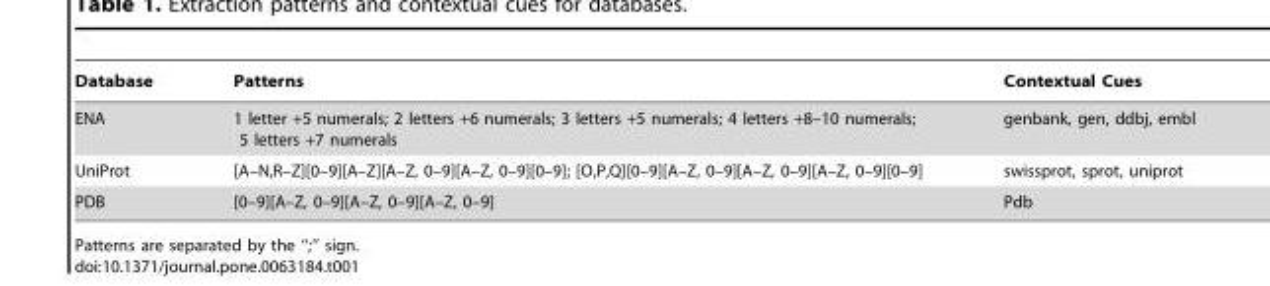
<table><thead><tr><td>Database</td><td>Patterns</td><td>Contextual Cues</td></tr></thead><tbody><tr><td>ENA</td><td>1 letter +5 numerals; 2 letters +6 numerals; 3 letters +5 numerals; 4 letters +8–10 numerals; 5 letters +7 numerals</td><td>genbank, gen, ddbj, embl</td></tr><tr><td>UniProt</td><td>[A–N,R–Z][0–9][A–Z][A–Z, 0–9][A–Z, 0–9][0–9]; [O,P,Q][0–9][A–Z, 0–9][A–Z, 0–9][A–Z, 0–9][0–9]</td><td>swissprot, sprot, uniprot</td></tr><tr><td>PDB</td><td>[0–9][A–Z, 0–9][A–Z, 0–9][A–Z, 0–9]</td><td>Pdb</td></tr></tbody></table>